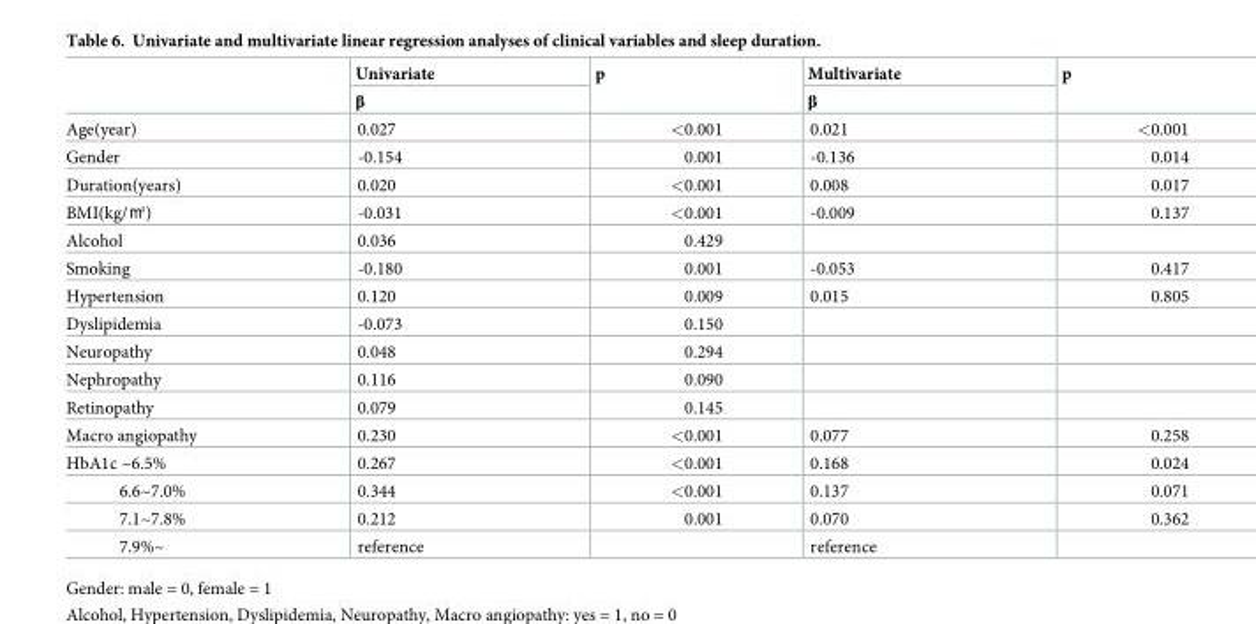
<table><thead><tr><td rowspan="2"></td><td rowspan="2">Univariate β</td><td rowspan="2">p</td><td rowspan="2">Multivariate β</td><td rowspan="2">p</td></tr><tr></tr></thead><tbody><tr><td>Age(year)</td><td>0.027</td><td>&lt;0.001</td><td>0.021</td><td>&lt;0.001</td></tr><tr><td>Gender</td><td>-0.154</td><td>0.001</td><td>-0.136</td><td>0.014</td></tr><tr><td>Duration(years)</td><td>0.020</td><td>&lt;0.001</td><td>0.008</td><td>0.017</td></tr><tr><td>BMI(kg/㎡)</td><td>-0.031</td><td>&lt;0.001</td><td>-0.009</td><td>0.137</td></tr><tr><td>Alcohol</td><td>0.036</td><td>0.429</td><td></td><td></td></tr><tr><td>Smoking</td><td>-0.180</td><td>0.001</td><td>-0.053</td><td>0.417</td></tr><tr><td>Hypertension</td><td>0.120</td><td>0.009</td><td>0.015</td><td>0.805</td></tr><tr><td>Dyslipidemia</td><td>-0.073</td><td>0.150</td><td></td><td></td></tr><tr><td>Neuropathy</td><td>0.048</td><td>0.294</td><td></td><td></td></tr><tr><td>Nephropathy</td><td>0.116</td><td>0.090</td><td></td><td></td></tr><tr><td>Retinopathy</td><td>0.079</td><td>0.145</td><td></td><td></td></tr><tr><td>Macro angiopathy</td><td>0.230</td><td>&lt;0.001</td><td>0.077</td><td>0.258</td></tr><tr><td>HbA1c ~6.5%</td><td>0.267</td><td>&lt;0.001</td><td>0.168</td><td>0.024</td></tr><tr><td>6.6~7.0%</td><td>0.344</td><td>&lt;0.001</td><td>0.137</td><td>0.071</td></tr><tr><td>7.1~7.8%</td><td>0.212</td><td>0.001</td><td>0.070</td><td>0.362</td></tr><tr><td>7.9%~</td><td>reference</td><td></td><td>reference</td><td></td></tr></tbody></table>